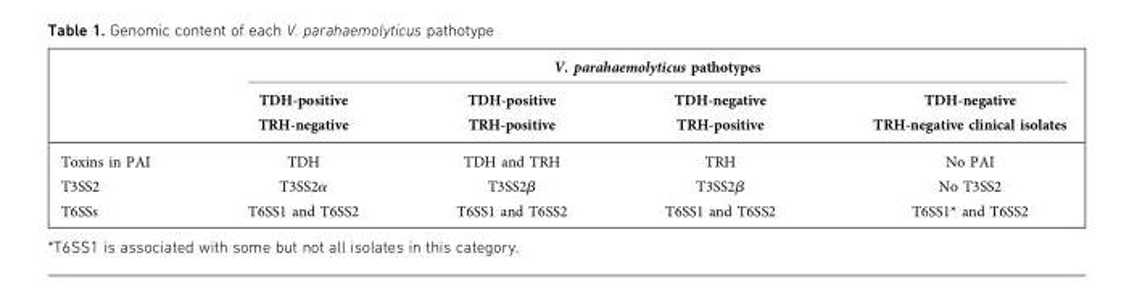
<table><thead><tr><td rowspan="3"></td><td colspan="4">V. parahaemolyticus pathotypes</td></tr><tr><td rowspan="2">TDH-positive TRH-negative</td><td rowspan="2">TDH-positive TRH-positive</td><td rowspan="2">TDH-negative TRH-positive</td><td rowspan="2">TDH-negative TRH-negative clinical isolates</td></tr><tr></tr></thead><tbody><tr><td>Toxins in PAI</td><td>TDH</td><td>TDH and TRH</td><td>TRH</td><td>No PAI</td></tr><tr><td>T3SS2</td><td>T3SS2α</td><td>T3SS2β</td><td>T3SS2β</td><td>No T3SS2</td></tr><tr><td>T6SSs</td><td>T6SS1 and T6SS2</td><td>T6SS1 and T6SS2</td><td>T6SS1 and T6SS2</td><td>T6SS1* and T6SS2</td></tr></tbody></table>